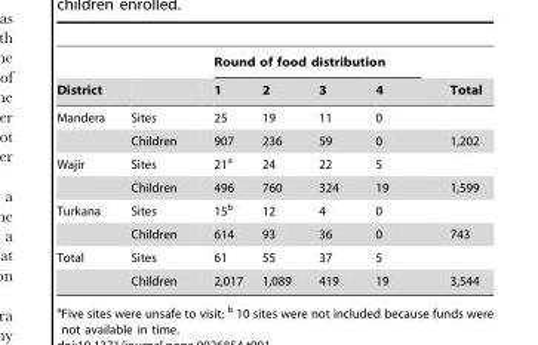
<table><thead><tr><td rowspan="2">District</td><td rowspan="2"></td><td colspan="4">Round of food distribution</td><td rowspan="2">Total</td></tr><tr><td>1</td><td>2</td><td>3</td><td>4</td></tr></thead><tbody><tr><td rowspan="2">Mandera</td><td>Sites</td><td>25</td><td>19</td><td>11</td><td>0</td><td></td></tr><tr><td>Children</td><td>907</td><td>236</td><td>59</td><td>0</td><td>1,202</td></tr><tr><td rowspan="2">Wajir</td><td>Sites</td><td>21<sup>a</sup></td><td>24</td><td>22</td><td>5</td><td></td></tr><tr><td>Children</td><td>496</td><td>760</td><td>324</td><td>19</td><td>1,599</td></tr><tr><td rowspan="2">Turkana</td><td>Sites</td><td>15<sup>b</sup></td><td>12</td><td>4</td><td>0</td><td></td></tr><tr><td>Children</td><td>614</td><td>93</td><td>36</td><td>0</td><td>743</td></tr><tr><td rowspan="2">Total</td><td>Sites</td><td>61</td><td>55</td><td>37</td><td>5</td><td></td></tr><tr><td>Children</td><td>2,017</td><td>1,089</td><td>419</td><td>19</td><td>3,544</td></tr></tbody></table>